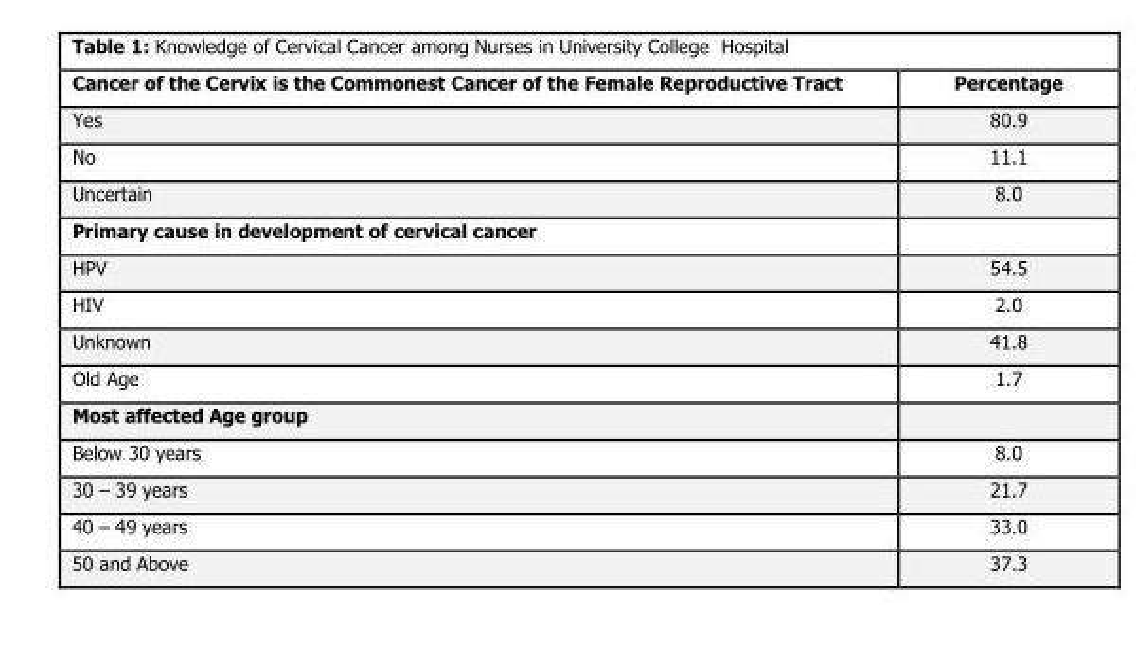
<table><thead><tr><td>Cancer of the Cervix is the Commonest Cancer of the Female Reproductive Tract</td><td>Percentage</td></tr></thead><tbody><tr><td>Yes</td><td>80.9</td></tr><tr><td>No</td><td>11.1</td></tr><tr><td>Uncertain</td><td>8.0</td></tr><tr><td colspan="2">Primary cause in development of cervical cancer</td></tr><tr><td>HPV</td><td>54.5</td></tr><tr><td>HIV</td><td>2.0</td></tr><tr><td>Unknown</td><td>41.8</td></tr><tr><td>Old Age</td><td>1.7</td></tr><tr><td colspan="2">Most affected Age group</td></tr><tr><td>Below 30 years</td><td>8.0</td></tr><tr><td>30 – 39 years</td><td>21.7</td></tr><tr><td>40 – 49 years</td><td>33.0</td></tr><tr><td>50 and Above</td><td>37.3</td></tr></tbody></table>